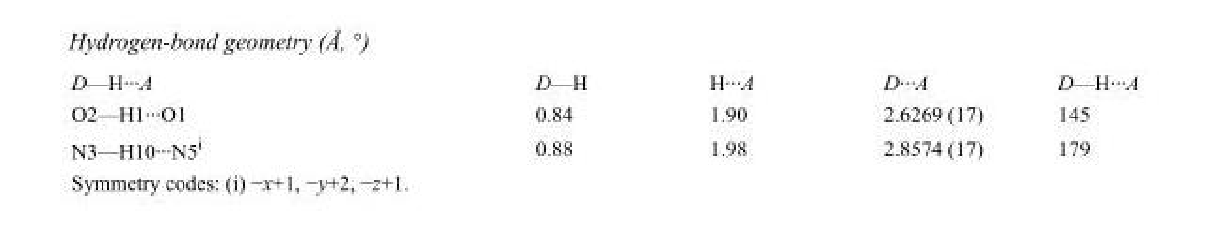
<table><tbody><tr><td>D—H···A</td><td>D—H</td><td>H···A</td><td>D···A</td><td>D—H···A</td></tr><tr><td>O2—H1···O1</td><td>0.84</td><td>1.90</td><td>2.6269 (17)</td><td>145</td></tr><tr><td>N3—H10···N5<sup>i</sup></td><td>0.88</td><td>1.98</td><td>2.8574 (17)</td><td>179</td></tr></tbody></table>